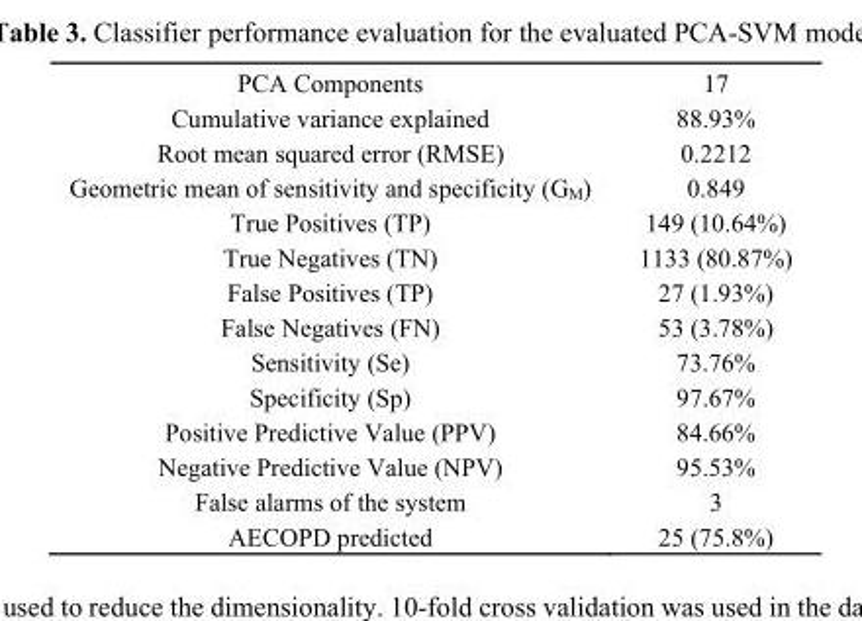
<table><tbody><tr><td>PCA Components</td><td>17</td></tr><tr><td>Cumulative variance explained</td><td>88.93%</td></tr><tr><td>Root mean squared error (RMSE)</td><td>0.2212</td></tr><tr><td>Geometric mean of sensitivity and specificity (G<sub>M</sub>)</td><td>0.849</td></tr><tr><td>True Positives (TP)</td><td>149 (10.64%)</td></tr><tr><td>True Negatives (TN)</td><td>1133 (80.87%)</td></tr><tr><td>False Positives (TP)</td><td>27 (1.93%)</td></tr><tr><td>False Negatives (FN)</td><td>53 (3.78%)</td></tr><tr><td>Sensitivity (Se)</td><td>73.76%</td></tr><tr><td>Specificity (Sp)</td><td>97.67%</td></tr><tr><td>Positive Predictive Value (PPV)</td><td>84.66%</td></tr><tr><td>Negative Predictive Value (NPV)</td><td>95.53%</td></tr><tr><td>False alarms of the system</td><td>3</td></tr><tr><td>AECOPD predicted</td><td>25 (75.8%)</td></tr></tbody></table>